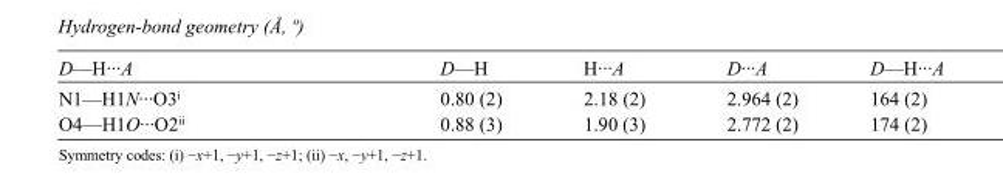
<table><tbody><tr><td>D—H···A</td><td>D—H</td><td>H···A</td><td>D···A</td><td>D—H···A</td></tr><tr><td>N1—H1N···O3<sup>i</sup></td><td>0.80 (2)</td><td>2.18 (2)</td><td>2.964 (2)</td><td>164 (2)</td></tr><tr><td>O4—H1O···O2<sup>ii</sup></td><td>0.88 (3)</td><td>1.90 (3)</td><td>2.772 (2)</td><td>174 (2)</td></tr></tbody></table>